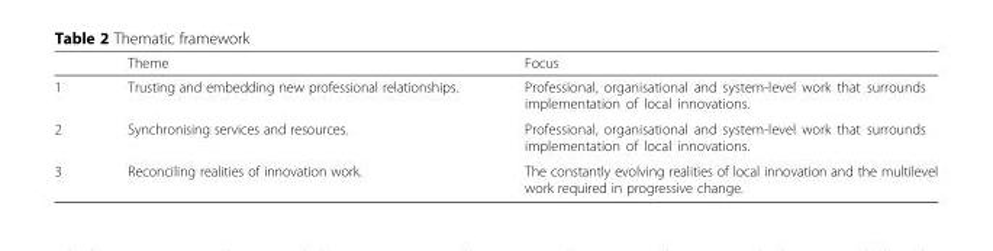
<table><thead><tr><td></td><td>Theme</td><td>Focus</td></tr></thead><tbody><tr><td>1</td><td>Trusting and embedding new professional relationships.</td><td>Professional, organisational and system-level work that surrounds implementation of local innovations.</td></tr><tr><td>2</td><td>Synchronising services and resources.</td><td>Professional, organisational and system-level work that surrounds implementation of local innovations.</td></tr><tr><td>3</td><td>Reconciling realities of innovation work.</td><td>The constantly evolving realities of local innovation and the multilevel work required in progressive change.</td></tr></tbody></table>